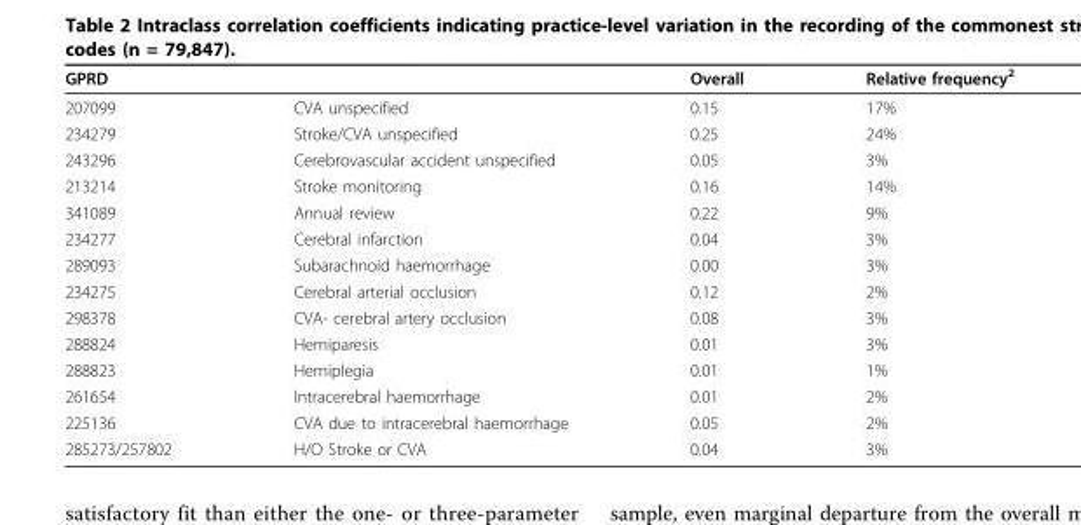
<table><thead><tr><td>GPRD</td><td></td><td>Overall</td><td>Relative frequency<sup>2</sup></td></tr></thead><tbody><tr><td>207099</td><td>CVA unspecified</td><td>0.15</td><td>17%</td></tr><tr><td>234279</td><td>Stroke/CVA unspecified</td><td>0.25</td><td>24%</td></tr><tr><td>243296</td><td>Cerebrovascular accident unspecified</td><td>0.05</td><td>3%</td></tr><tr><td>213214</td><td>Stroke monitoring</td><td>0.16</td><td>14%</td></tr><tr><td>341089</td><td>Annual review</td><td>0.22</td><td>9%</td></tr><tr><td>234277</td><td>Cerebral infarction</td><td>0.04</td><td>3%</td></tr><tr><td>289093</td><td>Subarachnoid haemorrhage</td><td>0.00</td><td>3%</td></tr><tr><td>234275</td><td>Cerebral arterial occlusion</td><td>0.12</td><td>2%</td></tr><tr><td>298378</td><td>CVA- cerebral artery occlusion</td><td>0.08</td><td>3%</td></tr><tr><td>288824</td><td>Hemiparesis</td><td>0.01</td><td>3%</td></tr><tr><td>288823</td><td>Hemiplegia</td><td>0.01</td><td>1%</td></tr><tr><td>261654</td><td>Intracerebral haemorrhage</td><td>0.01</td><td>2%</td></tr><tr><td>225136</td><td>CVA due to intracerebral haemorrhage</td><td>0.05</td><td>2%</td></tr><tr><td>285273/257802</td><td>H/O Stroke or CVA</td><td>0.04</td><td>3%</td></tr></tbody></table>